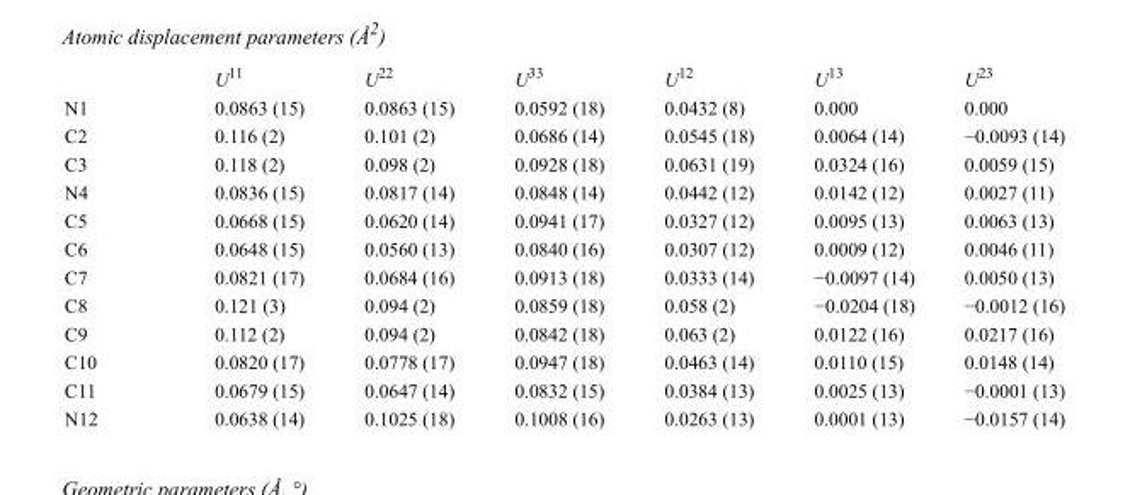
<table><thead><tr><td></td><td>U<sup>11</sup></td><td>U<sup>22</sup></td><td>U<sup>33</sup></td><td>U<sup>12</sup></td><td>U<sup>13</sup></td><td>U<sup>23</sup></td></tr></thead><tbody><tr><td>N1</td><td>0.0863 (15)</td><td>0.0863 (15)</td><td>0.0592 (18)</td><td>0.0432 (8)</td><td>0.000</td><td>0.000</td></tr><tr><td>C2</td><td>0.116 (2)</td><td>0.101 (2)</td><td>0.0686 (14)</td><td>0.0545 (18)</td><td>0.0064 (14)</td><td>−0.0093 (14)</td></tr><tr><td>C3</td><td>0.118 (2)</td><td>0.098 (2)</td><td>0.0928 (18)</td><td>0.0631 (19)</td><td>0.0324 (16)</td><td>0.0059 (15)</td></tr><tr><td>N4</td><td>0.0836 (15)</td><td>0.0817 (14)</td><td>0.0848 (14)</td><td>0.0442 (12)</td><td>0.0142 (12)</td><td>0.0027 (11)</td></tr><tr><td>C5</td><td>0.0668 (15)</td><td>0.0620 (14)</td><td>0.0941 (17)</td><td>0.0327 (12)</td><td>0.0095 (13)</td><td>0.0063 (13)</td></tr><tr><td>C6</td><td>0.0648 (15)</td><td>0.0560 (13)</td><td>0.0840 (16)</td><td>0.0307 (12)</td><td>0.0009 (12)</td><td>0.0046 (11)</td></tr><tr><td>C7</td><td>0.0821 (17)</td><td>0.0684 (16)</td><td>0.0913 (18)</td><td>0.0333 (14)</td><td>−0.0097 (14)</td><td>0.0050 (13)</td></tr><tr><td>C8</td><td>0.121 (3)</td><td>0.094 (2)</td><td>0.0859 (18)</td><td>0.058 (2)</td><td>−0.0204 (18)</td><td>−0.0012 (16)</td></tr><tr><td>C9</td><td>0.112 (2)</td><td>0.094 (2)</td><td>0.0842 (18)</td><td>0.063 (2)</td><td>0.0122 (16)</td><td>0.0217 (16)</td></tr><tr><td>C10</td><td>0.0820 (17)</td><td>0.0778 (17)</td><td>0.0947 (18)</td><td>0.0463 (14)</td><td>0.0110 (15)</td><td>0.0148 (14)</td></tr><tr><td>C11</td><td>0.0679 (15)</td><td>0.0647 (14)</td><td>0.0832 (15)</td><td>0.0384 (13)</td><td>0.0025 (13)</td><td>−0.0001 (13)</td></tr><tr><td>N12</td><td>0.0638 (14)</td><td>0.1025 (18)</td><td>0.1008 (16)</td><td>0.0263 (13)</td><td>0.0001 (13)</td><td>−0.0157 (14)</td></tr></tbody></table>